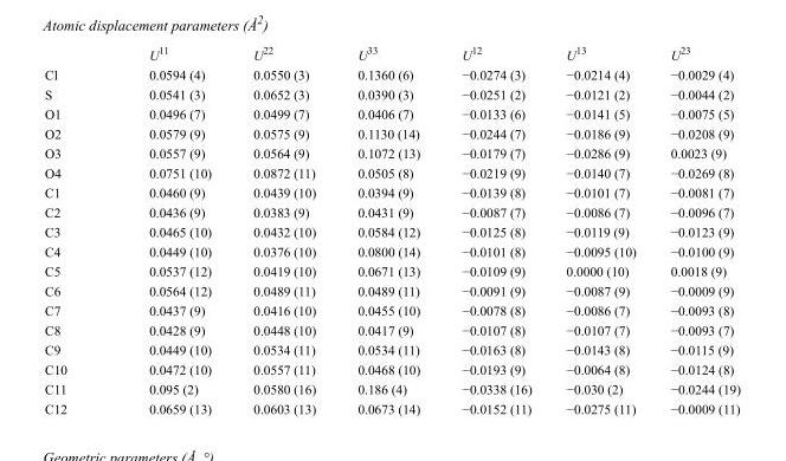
<table><thead><tr><td></td><td>U<sup>11</sup></td><td>U<sup>22</sup></td><td>U<sup>33</sup></td><td>U<sup>12</sup></td><td>U<sup>13</sup></td><td>U<sup>23</sup></td></tr></thead><tbody><tr><td>Cl</td><td>0.0594 (4)</td><td>0.0550 (3)</td><td>0.1360 (6)</td><td>−0.0274 (3)</td><td>−0.0214 (4)</td><td>−0.0029 (4)</td></tr><tr><td>S</td><td>0.0541 (3)</td><td>0.0652 (3)</td><td>0.0390 (3)</td><td>−0.0251 (2)</td><td>−0.0121 (2)</td><td>−0.0044 (2)</td></tr><tr><td>O1</td><td>0.0496 (7)</td><td>0.0499 (7)</td><td>0.0406 (7)</td><td>−0.0133 (6)</td><td>−0.0141 (5)</td><td>−0.0075 (5)</td></tr><tr><td>O2</td><td>0.0579 (9)</td><td>0.0575 (9)</td><td>0.1130 (14)</td><td>−0.0244 (7)</td><td>−0.0186 (9)</td><td>−0.0208 (9)</td></tr><tr><td>O3</td><td>0.0557 (9)</td><td>0.0564 (9)</td><td>0.1072 (13)</td><td>−0.0179 (7)</td><td>−0.0286 (9)</td><td>0.0023 (9)</td></tr><tr><td>O4</td><td>0.0751 (10)</td><td>0.0872 (11)</td><td>0.0505 (8)</td><td>−0.0219 (9)</td><td>−0.0140 (7)</td><td>−0.0269 (8)</td></tr><tr><td>C1</td><td>0.0460 (9)</td><td>0.0439 (10)</td><td>0.0394 (9)</td><td>−0.0139 (8)</td><td>−0.0101 (7)</td><td>−0.0081 (7)</td></tr><tr><td>C2</td><td>0.0436 (9)</td><td>0.0383 (9)</td><td>0.0431 (9)</td><td>−0.0087 (7)</td><td>−0.0086 (7)</td><td>−0.0096 (7)</td></tr><tr><td>C3</td><td>0.0465 (10)</td><td>0.0432 (10)</td><td>0.0584 (12)</td><td>−0.0125 (8)</td><td>−0.0119 (9)</td><td>−0.0123 (9)</td></tr><tr><td>C4</td><td>0.0449 (10)</td><td>0.0376 (10)</td><td>0.0800 (14)</td><td>−0.0101 (8)</td><td>−0.0095 (10)</td><td>−0.0100 (9)</td></tr><tr><td>C5</td><td>0.0537 (12)</td><td>0.0419 (10)</td><td>0.0671 (13)</td><td>−0.0109 (9)</td><td>0.0000 (10)</td><td>0.0018 (9)</td></tr><tr><td>C6</td><td>0.0564 (12)</td><td>0.0489 (11)</td><td>0.0489 (11)</td><td>−0.0091 (9)</td><td>−0.0087 (9)</td><td>−0.0009 (9)</td></tr><tr><td>C7</td><td>0.0437 (9)</td><td>0.0416 (10)</td><td>0.0455 (10)</td><td>−0.0078 (8)</td><td>−0.0086 (7)</td><td>−0.0093 (8)</td></tr><tr><td>C8</td><td>0.0428 (9)</td><td>0.0448 (10)</td><td>0.0417 (9)</td><td>−0.0107 (8)</td><td>−0.0107 (7)</td><td>−0.0093 (7)</td></tr><tr><td>C9</td><td>0.0449 (10)</td><td>0.0534 (11)</td><td>0.0534 (11)</td><td>−0.0163 (8)</td><td>−0.0143 (8)</td><td>−0.0115 (9)</td></tr><tr><td>C10</td><td>0.0472 (10)</td><td>0.0557 (11)</td><td>0.0468 (10)</td><td>−0.0193 (9)</td><td>−0.0064 (8)</td><td>−0.0124 (8)</td></tr><tr><td>C11</td><td>0.095 (2)</td><td>0.0580 (16)</td><td>0.186 (4)</td><td>−0.0338 (16)</td><td>−0.030 (2)</td><td>−0.0244 (19)</td></tr><tr><td>C12</td><td>0.0659 (13)</td><td>0.0603 (13)</td><td>0.0673 (14)</td><td>−0.0152 (11)</td><td>−0.0275 (11)</td><td>−0.0009 (11)</td></tr></tbody></table>